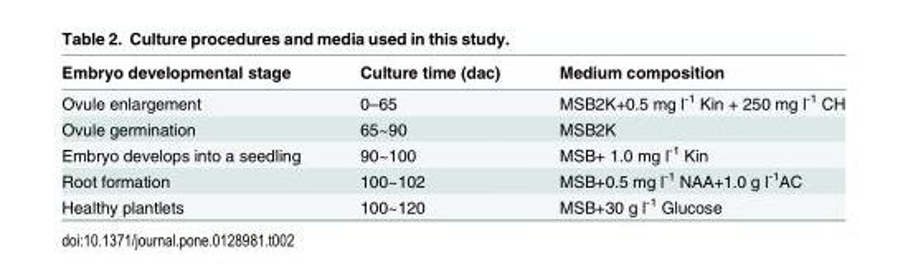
<table><thead><tr><td>Embryo developmental stage</td><td>Culture time (dac)</td><td>Medium composition</td></tr></thead><tbody><tr><td>Ovule enlargement</td><td>0–65</td><td>MSB2K+0.5 mg l<sup>-1</sup> Kin + 250 mg l<sup>-1</sup> CH</td></tr><tr><td>Ovule germination</td><td>65~90</td><td>MSB2K</td></tr><tr><td>Embryo develops into a seedling</td><td>90~100</td><td>MSB+ 1.0 mg l<sup>-1</sup> Kin</td></tr><tr><td>Root formation</td><td>100~102</td><td>MSB+0.5 mg l<sup>-1</sup> NAA+1.0 g l<sup>-1</sup>AC</td></tr><tr><td>Healthy plantlets</td><td>100~120</td><td>MSB+30 g l<sup>-1</sup> Glucose</td></tr></tbody></table>